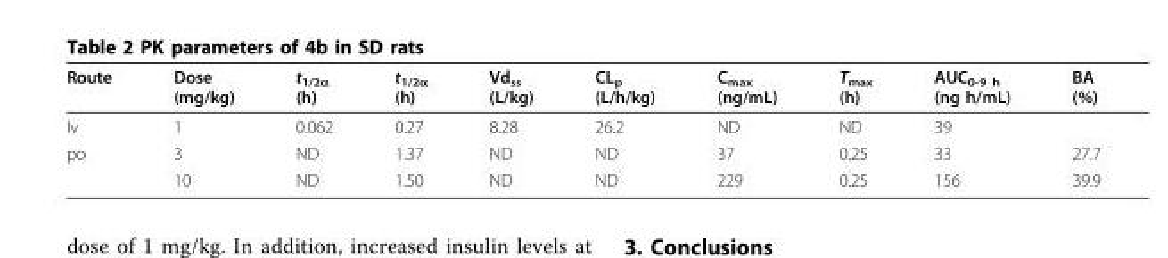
<table><thead><tr><td>Route</td><td>Dose (mg/kg)</td><td>t<sub>1/2α</sub> (h)</td><td>t<sub>1/2α</sub> (h)</td><td>Vd<sub>ss</sub> (L/kg)</td><td>CL<sub>p</sub> (L/h/kg)</td><td>C<sub>max</sub> (ng/mL)</td><td>T<sub>max</sub> (h)</td><td>AUC<sub>0-9 h</sub> (ng h/mL)</td><td>BA (%)</td></tr></thead><tbody><tr><td>Iv</td><td>1</td><td>0.062</td><td>0.27</td><td>8.28</td><td>26.2</td><td>ND</td><td>ND</td><td>39</td><td></td></tr><tr><td rowspan="2">po</td><td>3</td><td>ND</td><td>1.37</td><td>ND</td><td>ND</td><td>37</td><td>0.25</td><td>33</td><td>27.7</td></tr><tr><td>10</td><td>ND</td><td>1.50</td><td>ND</td><td>ND</td><td>229</td><td>0.25</td><td>156</td><td>39.9</td></tr></tbody></table>